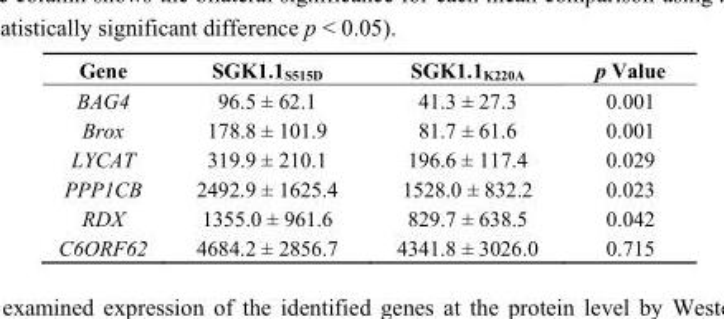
<table><thead><tr><td>Gene</td><td>SGK1.1<sub>S515D</sub></td><td>SGK1.1<sub>K220A</sub></td><td>p Value</td></tr></thead><tbody><tr><td>BAG4</td><td>96.5 ± 62.1</td><td>41.3 ± 27.3</td><td>0.001</td></tr><tr><td>Brox</td><td>178.8 ± 101.9</td><td>81.7 ± 61.6</td><td>0.001</td></tr><tr><td>LYCAT</td><td>319.9 ± 210.1</td><td>196.6 ± 117.4</td><td>0.029</td></tr><tr><td>PPP1CB</td><td>2492.9 ± 1625.4</td><td>1528.0 ± 832.2</td><td>0.023</td></tr><tr><td>RDX</td><td>1355.0 ± 961.6</td><td>829.7 ± 638.5</td><td>0.042</td></tr><tr><td>C6ORF62</td><td>4684.2 ± 2856.7</td><td>4341.8 ± 3026.0</td><td>0.715</td></tr></tbody></table>